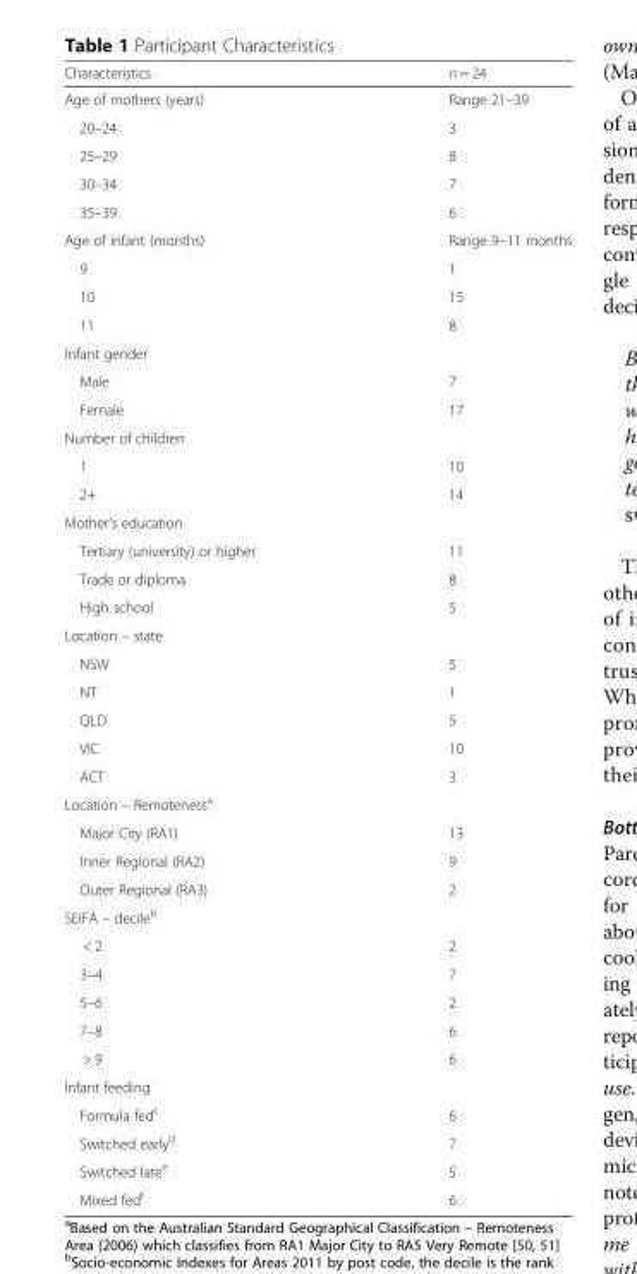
<table><thead><tr><td>Characteristics</td><td>n = 24</td></tr></thead><tbody><tr><td>Age of mothers (years)</td><td>Range 21–39</td></tr><tr><td>20–24</td><td>3</td></tr><tr><td>25–29</td><td>8</td></tr><tr><td>30–34</td><td>7</td></tr><tr><td>35–39</td><td>6</td></tr><tr><td>Age of infant (months)</td><td>Range 9–11 months</td></tr><tr><td>9</td><td>1</td></tr><tr><td>10</td><td>15</td></tr><tr><td>11</td><td>8</td></tr><tr><td colspan="2">Infant gender</td></tr><tr><td>Male</td><td>7</td></tr><tr><td>Female</td><td>17</td></tr><tr><td colspan="2">Number of children</td></tr><tr><td>1</td><td>10</td></tr><tr><td>2+</td><td>14</td></tr><tr><td colspan="2">Mother’s education</td></tr><tr><td>Tertiary (university) or higher</td><td>11</td></tr><tr><td>Trade or diploma</td><td>8</td></tr><tr><td>High school</td><td>5</td></tr><tr><td colspan="2">Location – state</td></tr><tr><td>NSW</td><td>5</td></tr><tr><td>NT</td><td>1</td></tr><tr><td>QLD</td><td>5</td></tr><tr><td>VIC</td><td>10</td></tr><tr><td>ACT</td><td>3</td></tr><tr><td colspan="2">Location – Remoteness<sup>a</sup></td></tr><tr><td>Major City (RA1)</td><td>13</td></tr><tr><td>Inner Regional (RA2)</td><td>9</td></tr><tr><td>Outer Regional (RA3)</td><td>2</td></tr><tr><td colspan="2">SEIFA – decile<sup>b</sup></td></tr><tr><td>&lt; 2</td><td>2</td></tr><tr><td>3–4</td><td>7</td></tr><tr><td>5–6</td><td>2</td></tr><tr><td>7–8</td><td>6</td></tr><tr><td>&gt; 9</td><td>6</td></tr><tr><td colspan="2">Infant feeding</td></tr><tr><td>Formula fed<sup>c</sup></td><td>6</td></tr><tr><td>Switched early<sup>d</sup></td><td>7</td></tr><tr><td>Switched late<sup>e</sup></td><td>5</td></tr><tr><td>Mixed fed<sup>f</sup></td><td>6</td></tr></tbody></table>